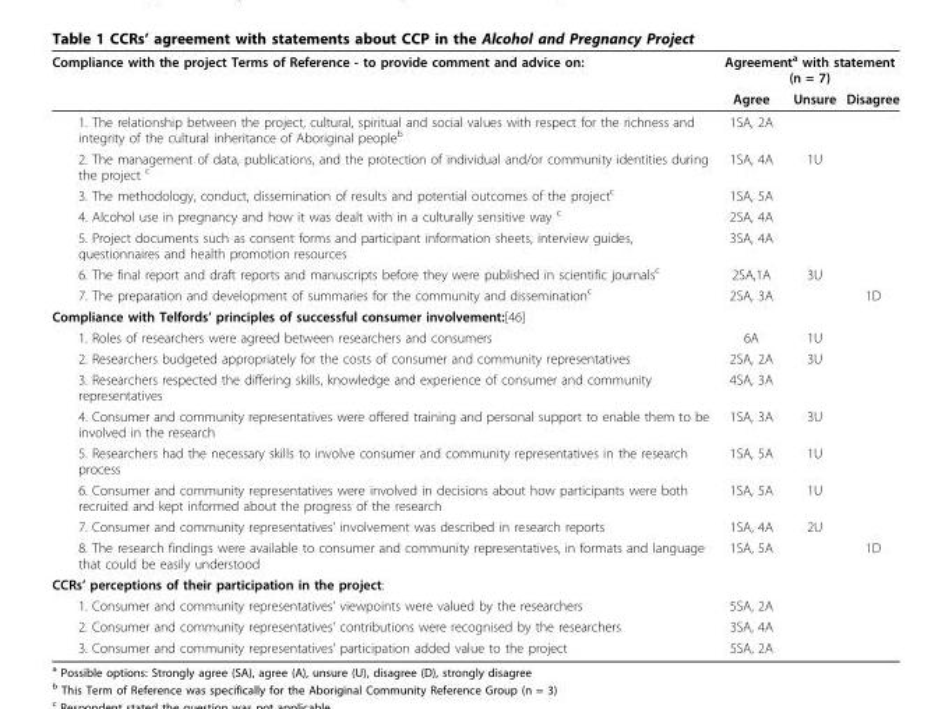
<table><thead><tr><td rowspan="2">Compliance with the project Terms of Reference - to provide comment and advice on:</td><td colspan="3">Agreement<sup>a</sup> with statement (n = 7)</td></tr><tr><td>Agree</td><td>Unsure</td><td>Disagree</td></tr></thead><tbody><tr><td>1. The relationship between the project, cultural, spiritual and social values with respect for the richness and integrity of the cultural inheritance of Aboriginal people<sup>b</sup></td><td>1SA, 2A</td><td></td><td></td></tr><tr><td>2. The management of data, publications, and the protection of individual and/or community identities during the project <sup>c</sup></td><td>1SA, 4A</td><td>1U</td><td></td></tr><tr><td>3. The methodology, conduct, dissemination of results and potential outcomes of the project<sup>c</sup></td><td>1SA, 5A</td><td></td><td></td></tr><tr><td>4. Alcohol use in pregnancy and how it was dealt with in a culturally sensitive way <sup>c</sup></td><td>2SA, 4A</td><td></td><td></td></tr><tr><td>5. Project documents such as consent forms and participant information sheets, interview guides, questionnaires and health promotion resources</td><td>3SA, 4A</td><td></td><td></td></tr><tr><td>6. The final report and draft reports and manuscripts before they were published in scientific journals<sup>c</sup></td><td>2SA,1A</td><td>3U</td><td></td></tr><tr><td>7. The preparation and development of summaries for the community and dissemination<sup>c</sup></td><td>2SA, 3A</td><td></td><td>1D</td></tr><tr><td colspan="4">Compliance with Telfords’ principles of successful consumer involvement:[46]</td></tr><tr><td>1. Roles of researchers were agreed between researchers and consumers</td><td>6A</td><td>1U</td><td></td></tr><tr><td>2. Researchers budgeted appropriately for the costs of consumer and community representatives</td><td>2SA, 2A</td><td>3U</td><td></td></tr><tr><td>3. Researchers respected the differing skills, knowledge and experience of consumer and community representatives</td><td>4SA, 3A</td><td></td><td></td></tr><tr><td>4. Consumer and community representatives were offered training and personal support to enable them to be involved in the research</td><td>1SA, 3A</td><td>3U</td><td></td></tr><tr><td>5. Researchers had the necessary skills to involve consumer and community representatives in the research process</td><td>1SA, 5A</td><td>1U</td><td></td></tr><tr><td>6. Consumer and community representatives were involved in decisions about how participants were both recruited and kept informed about the progress of the research</td><td>1SA, 5A</td><td>1U</td><td></td></tr><tr><td>7. Consumer and community representatives’ involvement was described in research reports</td><td>1SA, 4A</td><td>2U</td><td></td></tr><tr><td>8. The research findings were available to consumer and community representatives, in formats and language that could be easily understood</td><td>1SA, 5A</td><td></td><td>1D</td></tr><tr><td colspan="4">CCRs’ perceptions of their participation in the project:</td></tr><tr><td>1. Consumer and community representatives’ viewpoints were valued by the researchers</td><td>5SA, 2A</td><td></td><td></td></tr><tr><td>2. Consumer and community representatives’ contributions were recognised by the researchers</td><td>3SA, 4A</td><td></td><td></td></tr><tr><td>3. Consumer and community representatives’ participation added value to the project</td><td>5SA, 2A</td><td></td><td></td></tr></tbody></table>